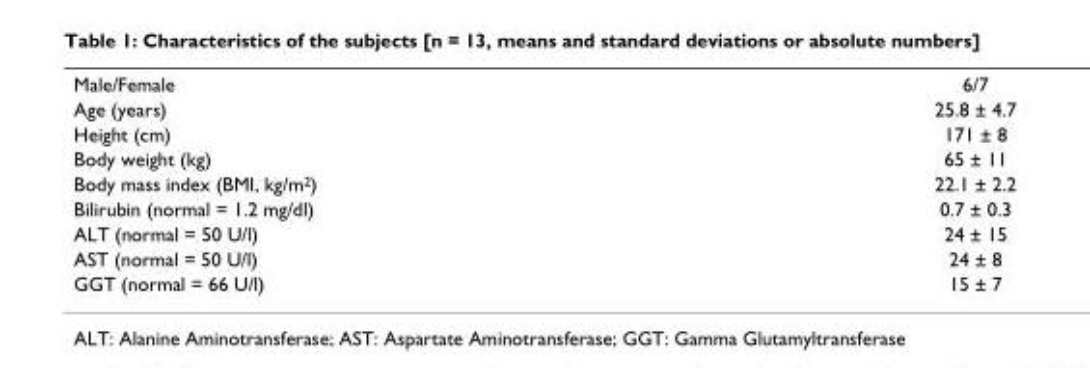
<table><tbody><tr><td>Male/Female</td><td>6/7</td></tr><tr><td>Age (years)</td><td>25.8 ± 4.7</td></tr><tr><td>Height (cm)</td><td>171 ± 8</td></tr><tr><td>Body weight (kg)</td><td>65 ± 11</td></tr><tr><td>Body mass index (BMI, kg/m<sup>2</sup>)</td><td>22.1 ± 2.2</td></tr><tr><td>Bilirubin (normal = 1.2 mg/dl)</td><td>0.7 ± 0.3</td></tr><tr><td>ALT (normal = 50 U/l)</td><td>24 ± 15</td></tr><tr><td>AST (normal = 50 U/l)</td><td>24 ± 8</td></tr><tr><td>GGT (normal = 66 U/l)</td><td>15 ± 7</td></tr></tbody></table>